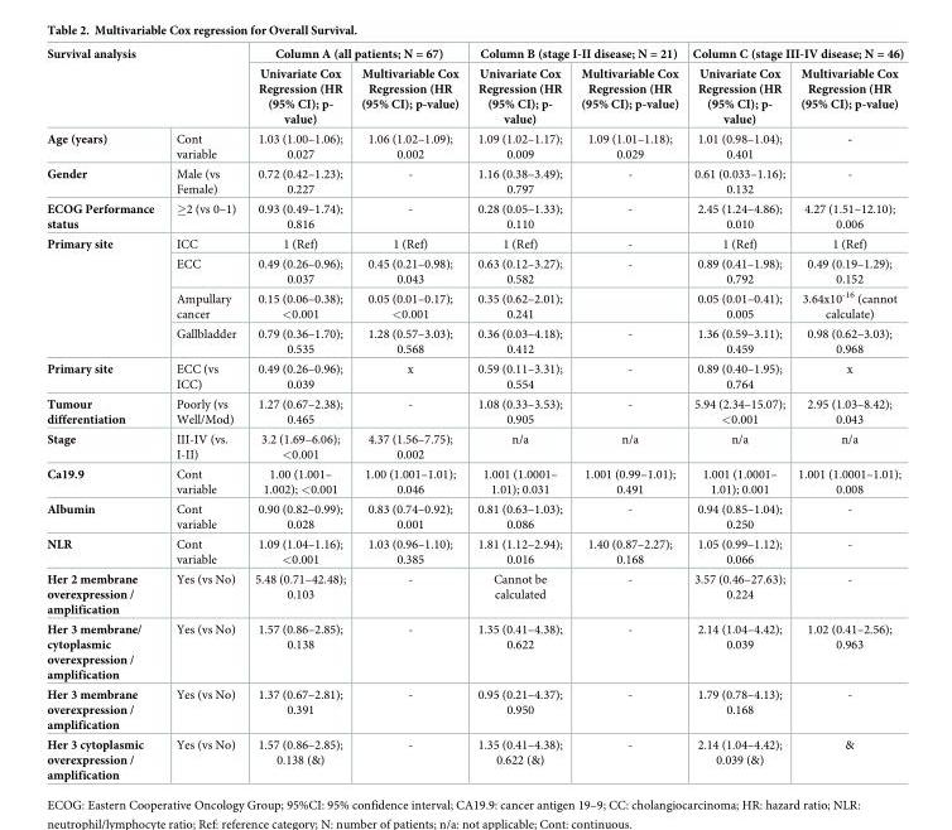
<table><thead><tr><td rowspan="2" colspan="2">Survival analysis</td><td colspan="2">Column A (all patients; N = 67)</td><td colspan="2">Column B (stage I-II disease; N = 21)</td><td colspan="2">Column C (stage III-IV disease; N = 46)</td></tr><tr><td rowspan="2">Univariate Cox Regression (HR (95% CI); p- value) 1.03 (1.00–1.06); 0.027</td><td rowspan="2">Multivariable Cox Regression (HR (95% CI); p-value) 1.06 (1.02–1.09); 0.002</td><td rowspan="2">Univariate Cox Regression (HR (95% CI); p- value) 1.09 (1.02–1.17); 0.009</td><td rowspan="2">Multivariable Cox Regression (HR (95% CI); p-value) 1.09 (1.01–1.18); 0.029</td><td rowspan="2">Univariate Cox Regression (HR (95% CI); p- value) 1.01 (0.98–1.04); 0.401</td><td rowspan="2">Multivariable Cox Regression (HR (95% CI); p-value) -</td></tr><tr><td>Age (years)</td><td>Cont variable</td></tr></thead><tbody><tr><td>Gender</td><td>Male (vs Female)</td><td>0.72 (0.42–1.23); 0.227</td><td>-</td><td>1.16 (0.38–3.49); 0.797</td><td>-</td><td>0.61 (0.033–1.16); 0.132</td><td>-</td></tr><tr><td>ECOG Performance status</td><td>≥2 (vs 0–1)</td><td>0.93 (0.49–1.74); 0.816</td><td>-</td><td>0.28 (0.05–1.33); 0.110</td><td>-</td><td>2.45 (1.24–4.86); 0.010</td><td>4.27 (1.51–12.10); 0.006</td></tr><tr><td rowspan="4">Primary site</td><td>ICC</td><td>1 (Ref)</td><td>1 (Ref)</td><td>1 (Ref)</td><td>-</td><td>1 (Ref)</td><td>1 (Ref)</td></tr><tr><td>ECC</td><td>0.49 (0.26–0.96); 0.037</td><td>0.45 (0.21–0.98); 0.043</td><td>0.63 (0.12–3.27); 0.582</td><td>-</td><td>0.89 (0.41–1.98); 0.792</td><td>0.49 (0.19–1.29); 0.152</td></tr><tr><td>Ampullary cancer</td><td>0.15 (0.06–0.38); &lt;0.001</td><td>0.05 (0.01–0.17); &lt;0.001</td><td>0.35 (0.62–2.01); 0.241</td><td></td><td>0.05 (0.01–0.41); 0.005</td><td>3.64x10<sup>-16</sup> (cannot calculate)</td></tr><tr><td>Gallbladder</td><td>0.79 (0.36–1.70); 0.535</td><td>1.28 (0.57–3.03); 0.568</td><td>0.36 (0.03–4.18); 0.412</td><td>-</td><td>1.36 (0.59–3.11); 0.459</td><td>0.98 (0.62–3.03); 0.968</td></tr><tr><td>Primary site</td><td>ECC (vs ICC)</td><td>0.49 (0.26–0.96); 0.039</td><td>x</td><td>0.59 (0.11–3.31); 0.554</td><td>-</td><td>0.89 (0.40–1.95); 0.764</td><td>x</td></tr><tr><td>Tumour differentiation</td><td>Poorly (vs Well/Mod)</td><td>1.27 (0.67–2.38); 0.465</td><td>-</td><td>1.08 (0.33–3.53); 0.905</td><td>-</td><td>5.94 (2.34–15.07); &lt;0.001</td><td>2.95 (1.03–8.42); 0.043</td></tr><tr><td>Stage</td><td>III-IV (vs. I-II)</td><td>3.2 (1.69–6.06); &lt;0.001</td><td>4.37 (1.56–7.75); 0.002</td><td>n/a</td><td>n/a</td><td>n/a</td><td>n/a</td></tr><tr><td>Ca19.9</td><td>Cont variable</td><td>1.00 (1.001– 1.002); &lt;0.001</td><td>1.00 (1.001–1.01); 0.046</td><td>1.001 (1.0001– 1.01); 0.031</td><td>1.001 (0.99–1.01); 0.491</td><td>1.001 (1.0001– 1.01); 0.001</td><td>1.001 (1.0001–1.01); 0.008</td></tr><tr><td>Albumin</td><td>Cont variable</td><td>0.90 (0.82–0.99); 0.028</td><td>0.83 (0.74–0.92); 0.001</td><td>0.81 (0.63–1.03); 0.086</td><td>-</td><td>0.94 (0.85–1.04); 0.250</td><td>-</td></tr><tr><td>NLR</td><td>Cont variable</td><td>1.09 (1.04–1.16); &lt;0.001</td><td>1.03 (0.96–1.10); 0.385</td><td>1.81 (1.12–2.94); 0.016</td><td>1.40 (0.87–2.27); 0.168</td><td>1.05 (0.99–1.12); 0.066</td><td>-</td></tr><tr><td>Her 2 membrane overexpression / amplification</td><td>Yes (vs No)</td><td>5.48 (0.71–42.48); 0.103</td><td>-</td><td>Cannot be calculated</td><td>-</td><td>3.57 (0.46–27.63); 0.224</td><td>-</td></tr><tr><td>Her 3 membrane/ cytoplasmic overexpression / amplification</td><td>Yes (vs No)</td><td>1.57 (0.86–2.85); 0.138</td><td>-</td><td>1.35 (0.41–4.38); 0.622</td><td>-</td><td>2.14 (1.04–4.42); 0.039</td><td>1.02 (0.41–2.56); 0.963</td></tr><tr><td>Her 3 membrane overexpression / amplification</td><td>Yes (vs No)</td><td>1.37 (0.67–2.81); 0.391</td><td>-</td><td>0.95 (0.21–4.37); 0.950</td><td>-</td><td>1.79 (0.78–4.13); 0.168</td><td>-</td></tr><tr><td>Her 3 cytoplasmic overexpression / amplification</td><td>Yes (vs No)</td><td>1.57 (0.86–2.85); 0.138 (&amp;)</td><td>-</td><td>1.35 (0.41–4.38); 0.622 (&amp;)</td><td>-</td><td>2.14 (1.04–4.42); 0.039 (&amp;)</td><td>&amp;</td></tr></tbody></table>